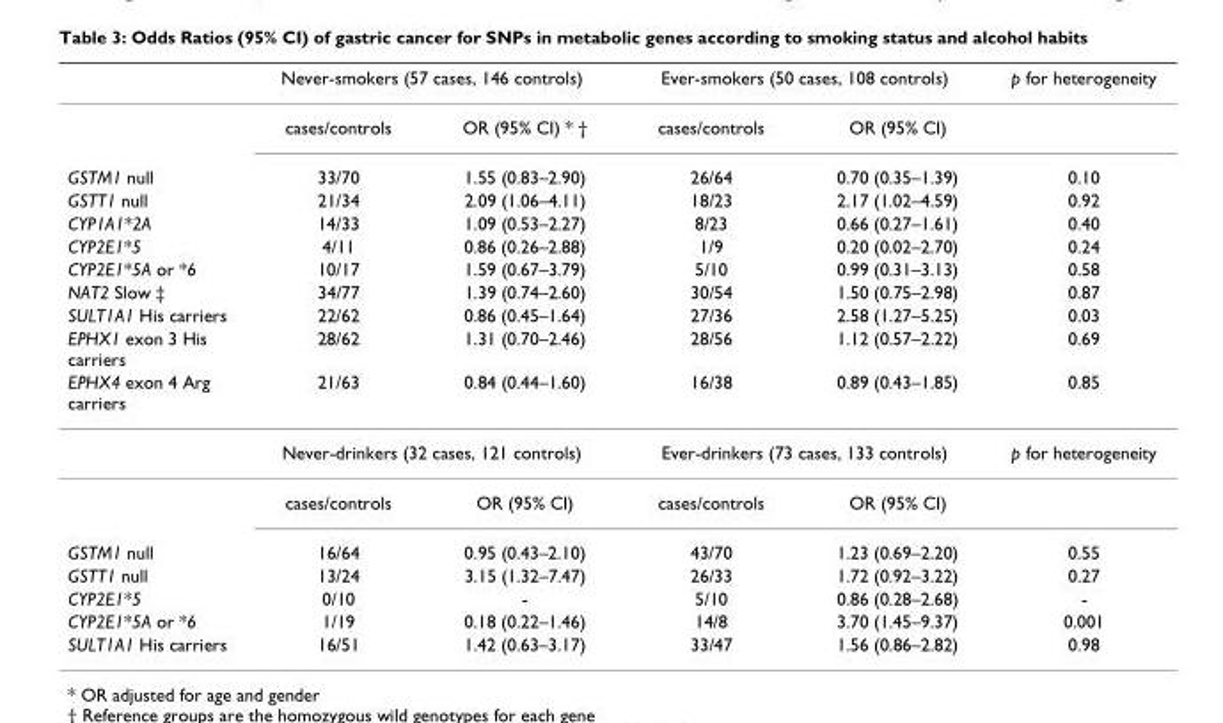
<table><thead><tr><td rowspan="2"></td><td colspan="2">Never-smokers (57 cases, 146 controls)</td><td colspan="2">Ever-smokers (50 cases, 108 controls)</td><td rowspan="2">p for heterogeneity</td></tr><tr><td>cases/controls</td><td>OR (95% CI) * †</td><td>cases/controls</td><td>OR (95% CI)</td></tr></thead><tbody><tr><td>GSTM1 null</td><td>33/70</td><td>1.55 (0.83–2.90)</td><td>26/64</td><td>0.70 (0.35–1.39)</td><td>0.10</td></tr><tr><td>GSTT1 null</td><td>21/34</td><td>2.09 (1.06–4.11)</td><td>18/23</td><td>2.17 (1.02–4.59)</td><td>0.92</td></tr><tr><td>CYP1A1*2A</td><td>14/33</td><td>1.09 (0.53–2.27)</td><td>8/23</td><td>0.66 (0.27–1.61)</td><td>0.40</td></tr><tr><td>CYP2E1*5</td><td>4/11</td><td>0.86 (0.26–2.88)</td><td>1/9</td><td>0.20 (0.02–2.70)</td><td>0.24</td></tr><tr><td>CYP2E1*5A or *6</td><td>10/17</td><td>1.59 (0.67–3.79)</td><td>5/10</td><td>0.99 (0.31–3.13)</td><td>0.58</td></tr><tr><td>NAT2 Slow ‡</td><td>34/77</td><td>1.39 (0.74–2.60)</td><td>30/54</td><td>1.50 (0.75–2.98)</td><td>0.87</td></tr><tr><td>SULT1A1 His carriers</td><td>22/62</td><td>0.86 (0.45–1.64)</td><td>27/36</td><td>2.58 (1.27–5.25)</td><td>0.03</td></tr><tr><td>EPHX1 exon 3 His carriers</td><td>28/62</td><td>1.31 (0.70–2.46)</td><td>28/56</td><td>1.12 (0.57–2.22)</td><td>0.69</td></tr><tr><td rowspan="3">EPHX4 exon 4 Arg carriers</td><td>21/63</td><td>0.84 (0.44–1.60)</td><td>16/38</td><td>0.89 (0.43–1.85)</td><td>0.85</td></tr><tr><td colspan="2">Never-drinkers (32 cases, 121 controls)</td><td colspan="2">Ever-drinkers (73 cases, 133 controls)</td><td>p for heterogeneity</td></tr><tr><td>cases/controls</td><td>OR (95% CI)</td><td>cases/controls</td><td>OR (95% CI)</td><td></td></tr><tr><td>GSTM1 null</td><td>16/64</td><td>0.95 (0.43–2.10)</td><td>43/70</td><td>1.23 (0.69–2.20)</td><td>0.55</td></tr><tr><td>GSTT1 null</td><td>13/24</td><td>3.15 (1.32–7.47)</td><td>26/33</td><td>1.72 (0.92–3.22)</td><td>0.27</td></tr><tr><td>CYP2E1*5</td><td>0/10</td><td>-</td><td>5/10</td><td>0.86 (0.28–2.68)</td><td>-</td></tr><tr><td>CYP2E1*5A or *6</td><td>1/19</td><td>0.18 (0.22–1.46)</td><td>14/8</td><td>3.70 (1.45–9.37)</td><td>0.001</td></tr><tr><td>SULT1A1 His carriers</td><td>16/51</td><td>1.42 (0.63–3.17)</td><td>33/47</td><td>1.56 (0.86–2.82)</td><td>0.98</td></tr></tbody></table>